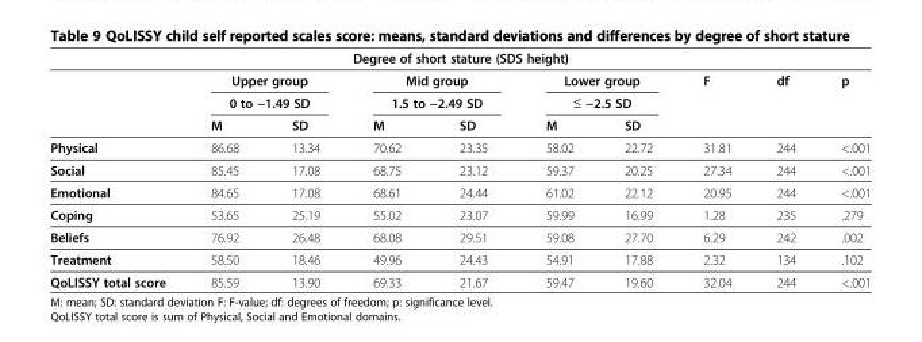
<table><thead><tr><td colspan="10">Degree of short stature (SDS height)</td></tr><tr><td rowspan="3"></td><td rowspan="2" colspan="2">Upper group 0 to −1.49 SD</td><td rowspan="2" colspan="2">Mid group 1.5 to −2.49 SD</td><td rowspan="2" colspan="2">Lower group ≤ −2.5 SD</td><td rowspan="3">F</td><td rowspan="3">df</td><td rowspan="3">p</td></tr><tr></tr><tr><td>M</td><td>SD</td><td>M</td><td>SD</td><td>M</td><td>SD</td></tr></thead><tbody><tr><td>Physical</td><td>86.68</td><td>13.34</td><td>70.62</td><td>23.35</td><td>58.02</td><td>22.72</td><td>31.81</td><td>244</td><td>&lt;.001</td></tr><tr><td>Social</td><td>85.45</td><td>17.08</td><td>68.75</td><td>23.12</td><td>59.37</td><td>20.25</td><td>27.34</td><td>244</td><td>&lt;.001</td></tr><tr><td>Emotional</td><td>84.65</td><td>17.08</td><td>68.61</td><td>24.44</td><td>61.02</td><td>22.12</td><td>20.95</td><td>244</td><td>&lt;.001</td></tr><tr><td>Coping</td><td>53.65</td><td>25.19</td><td>55.02</td><td>23.07</td><td>59.99</td><td>16.99</td><td>1.28</td><td>235</td><td>.279</td></tr><tr><td>Beliefs</td><td>76.92</td><td>26.48</td><td>68.08</td><td>29.51</td><td>59.08</td><td>27.70</td><td>6.29</td><td>242</td><td>.002</td></tr><tr><td>Treatment</td><td>58.50</td><td>18.46</td><td>49.96</td><td>24.43</td><td>54.91</td><td>17.88</td><td>2.32</td><td>134</td><td>.102</td></tr><tr><td>QoLISSY total score</td><td>85.59</td><td>13.90</td><td>69.33</td><td>21.67</td><td>59.47</td><td>19.60</td><td>32.04</td><td>244</td><td>&lt;.001</td></tr></tbody></table>